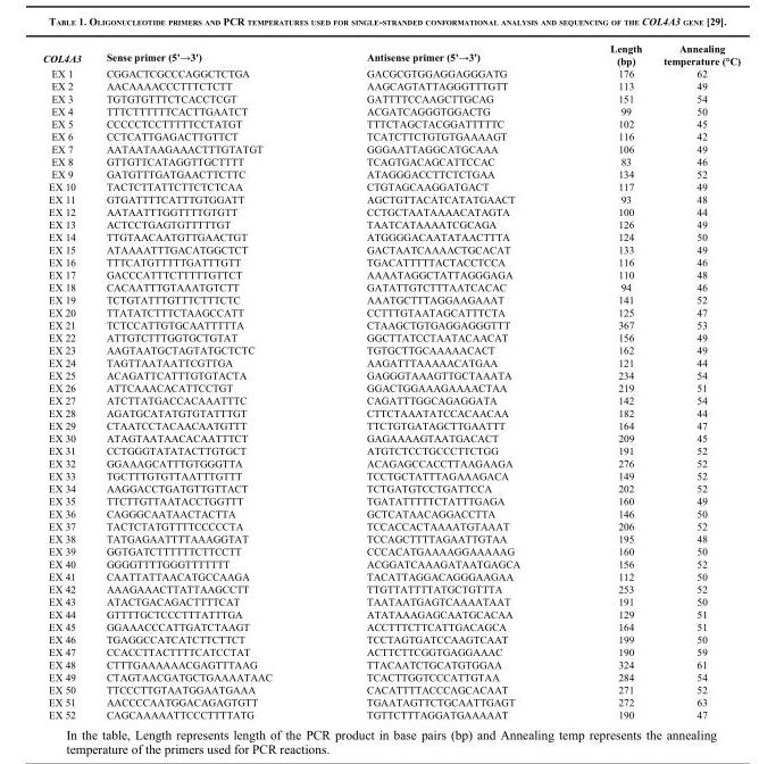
<table><thead><tr><td>COL4A3</td><td>Sense primer (5&#x27;→3&#x27;)</td><td>Antisense primer (5&#x27;→3&#x27;)</td><td>Length (bp)</td><td>Annealing temperature (°C)</td></tr></thead><tbody><tr><td>EX 1</td><td>CGGACTCGCCCAGGCTCTGA</td><td>GACGCGTGGAGGAGGGATG</td><td>176</td><td>62</td></tr><tr><td>EX 2</td><td>AACAAAACCCTTTCTCTT</td><td>AAGCAGTATTAGGGTTTGTT</td><td>113</td><td>49</td></tr><tr><td>EX 3</td><td>TGTGTGTTTCTCACCTCGT</td><td>GATTTTCCAAGCTTGCAG</td><td>151</td><td>54</td></tr><tr><td>EX 4</td><td>TTTCTTTTTTCACTTGAATCT</td><td>ACGATCAGGGTGGACTG</td><td>99</td><td>50</td></tr><tr><td>EX 5</td><td>CCCCCTCCTTTTTCCTATGT</td><td>TTTCTAGCTACGGATTTTTC</td><td>102</td><td>45</td></tr><tr><td>EX 6</td><td>CCTCATTGAGACTTGTTCT</td><td>TCATCTTCTGTGTGAAAAGT</td><td>116</td><td>42</td></tr><tr><td>EX 7</td><td>AATAATAAGAAACTTTGTATGT</td><td>GGGAATTAGGCATGCAAA</td><td>106</td><td>49</td></tr><tr><td>EX 8</td><td>GTTGTTCATAGGTTGCTTTT</td><td>TCAGTGACAGCATTCCAC</td><td>83</td><td>46</td></tr><tr><td>EX 9</td><td>GATGTTTGATGAACTTCTTC</td><td>ATAGGGACCTTCTCTGAA</td><td>134</td><td>52</td></tr><tr><td>EX 10</td><td>TACTCTTATTCTTCTCTCAA</td><td>CTGTAGCAAGGATGACT</td><td>117</td><td>49</td></tr><tr><td>EX 11</td><td>GTGATTTTCATTTGTGGATT</td><td>AGCTGTTACATCATATGAACT</td><td>93</td><td>48</td></tr><tr><td>EX 12</td><td>AATAATTTGGTTTTGTGTT</td><td>CCTGCTAATAAAACATAGTA</td><td>100</td><td>44</td></tr><tr><td>EX 13</td><td>ACTCCTGAGTGTTTTTGT</td><td>TAATCATAAAATCGCAGA</td><td>126</td><td>49</td></tr><tr><td>EX 14</td><td>TTGTAACAATGTTGAACTGT</td><td>ATGGGGACAATATAACTTTA</td><td>124</td><td>50</td></tr><tr><td>EX 15</td><td>ATAAAATTTGACATGGCTCT</td><td>GACTAATCAAAACTGCACAT</td><td>133</td><td>49</td></tr><tr><td>EX 16</td><td>TTTCATGTTTTTGATTTGTT</td><td>TGACATTTTTACTACCTCCA</td><td>116</td><td>46</td></tr><tr><td>EX 17</td><td>GACCCATTTCTTTTTGTTCT</td><td>AAAATAGGCTATTAGGGAGA</td><td>110</td><td>48</td></tr><tr><td>EX 18</td><td>CACAATTTGTAAATGTCTT</td><td>GATATTGTCTTTAATCACAC</td><td>94</td><td>46</td></tr><tr><td>EX 19</td><td>TCTGTATTTGTTTCTTTCTC</td><td>AAATGCTTTAGGAAGAAAT</td><td>141</td><td>52</td></tr><tr><td>EX 20</td><td>TTATATCTTTCTAAGCCATT</td><td>CCTTTGTAATAGCATTTCTA</td><td>125</td><td>47</td></tr><tr><td>EX 21</td><td>TCTCCATTGTGCAATTTTTA</td><td>CTAAGCTGTGAGGAGGGTTT</td><td>367</td><td>53</td></tr><tr><td>EX 22</td><td>ATTGTCTTTGGTGCTGTAT</td><td>GGCTTATCCTAATACAACAT</td><td>156</td><td>49</td></tr><tr><td>EX 23</td><td>AAGTAATGCTAGTATGCTCTC</td><td>TGTGCTTGCAAAAACACT</td><td>162</td><td>49</td></tr><tr><td>EX 24</td><td>TAGTTAATAATTCGTTGA</td><td>AAGATTTAAAAACATGAA</td><td>121</td><td>44</td></tr><tr><td>EX 25</td><td>ACAGATTCATTTGTGTACTA</td><td>GAGGGTAAAGTTGCTAAATA</td><td>234</td><td>54</td></tr><tr><td>EX 26</td><td>ATTCAAACACATTCCTGT</td><td>GGACTGGAAAGAAAACTAA</td><td>219</td><td>51</td></tr><tr><td>EX 27</td><td>ATCTTATGACCACAAATTTC</td><td>CAGATTTGGCAGAGGATA</td><td>142</td><td>54</td></tr><tr><td>EX 28</td><td>AGATGCATATGTGTATTTGT</td><td>CTTCTAAATATCCACAACAA</td><td>182</td><td>44</td></tr><tr><td>EX 29</td><td>CTAATCCTACAACAATGTTT</td><td>TTCTGTGATAGCTTGAATTT</td><td>164</td><td>47</td></tr><tr><td>EX 30</td><td>ATAGTAATAACACAATTTCT</td><td>GAGAAAAGTAATGACACT</td><td>209</td><td>45</td></tr><tr><td>EX 31</td><td>CCTGGGTATATACTTGTGCT</td><td>ATGTCTCCTGCCCTTCTGG</td><td>191</td><td>52</td></tr><tr><td>EX 32</td><td>GGAAAGCATTTGTGGGTTA</td><td>ACAGAGCCACCTTAAGAAGA</td><td>276</td><td>52</td></tr><tr><td>EX 33</td><td>TGCTTTGTGTTAATTTGTTT</td><td>TCCTGCTATTTAGAAAGACA</td><td>149</td><td>52</td></tr><tr><td>EX 34</td><td>AAGGACCTGATGTTGTTACT</td><td>TCTGATGTCCTGATTCCA</td><td>202</td><td>52</td></tr><tr><td>EX 35</td><td>TTCTTGTTAATACCTGGTTT</td><td>TGATATTTTTCTATTTGAGA</td><td>160</td><td>49</td></tr><tr><td>EX 36</td><td>CAGGGCAATAACTACTTA</td><td>GCTCATAACAGGACCTTA</td><td>146</td><td>50</td></tr><tr><td>EX 37</td><td>TACTCTATGTTTTCCCCCTA</td><td>TCCACCACTAAAATGTAAAT</td><td>206</td><td>52</td></tr><tr><td>EX 38</td><td>TATGAGAATTTTAAAGGTAT</td><td>TCCAGCTTTTAGAATTGTAA</td><td>195</td><td>48</td></tr><tr><td>EX 39</td><td>GGTGATCTTTTTTCTTCCTT</td><td>CCCACATGAAAAGGAAAAAG</td><td>160</td><td>50</td></tr><tr><td>EX 40</td><td>GGGGTTTTGGGTTTTTTT</td><td>ACGGATCAAAGATAATGAGCA</td><td>156</td><td>52</td></tr><tr><td>EX 41</td><td>CAATTATTAACATGCCAAGA</td><td>TACATTAGGACAGGGAAGAA</td><td>112</td><td>50</td></tr><tr><td>EX 42</td><td>AAAGAAACTTATTAAGCCTT</td><td>TTGTTATTTTATGCTGTTTA</td><td>253</td><td>52</td></tr><tr><td>EX 43</td><td>ATACTGACAGACTTTTCAT</td><td>TAATAATGAGTCAAAATAAT</td><td>191</td><td>50</td></tr><tr><td>EX 44</td><td>GTTTTGCTCCCTTTATTTGA</td><td>ATATAAAGAGCAATGCACAA</td><td>129</td><td>51</td></tr><tr><td>EX 45</td><td>GGAAACCCATTGATCTAAGT</td><td>ACCTTTCTTCATTGACAGCA</td><td>164</td><td>51</td></tr><tr><td>EX 46</td><td>TGAGGCCATCATCTTCTTCT</td><td>TCCTAGTGATCCAAGTCAAT</td><td>199</td><td>50</td></tr><tr><td>EX 47</td><td>CCACCTTACTTTTCATCCTAT</td><td>ACTTCTTCGGTGAGGAAAC</td><td>190</td><td>59</td></tr><tr><td>EX 48</td><td>CTTTGAAAAAACGAGTTTAAG</td><td>TTACAATCTGCATGTGGAA</td><td>324</td><td>61</td></tr><tr><td>EX 49</td><td>CTAGTAACGATGCTGAAAATAAC</td><td>TCACTTGGTCCCATTGTAA</td><td>284</td><td>54</td></tr><tr><td>EX 50</td><td>TTCCCTTGTAATGGAATGAAA</td><td>CACATTTTACCCAGCACAAT</td><td>271</td><td>52</td></tr><tr><td>EX 51</td><td>AACCCCAATGGACAGAGTGTT</td><td>TGAATAGTTCTGCAATTGAGT</td><td>272</td><td>63</td></tr><tr><td>EX 52</td><td>CAGCAAAAATTCCCTTTTATG</td><td>TGTTCTTTAGGATGAAAAAT</td><td>190</td><td>47</td></tr></tbody></table>